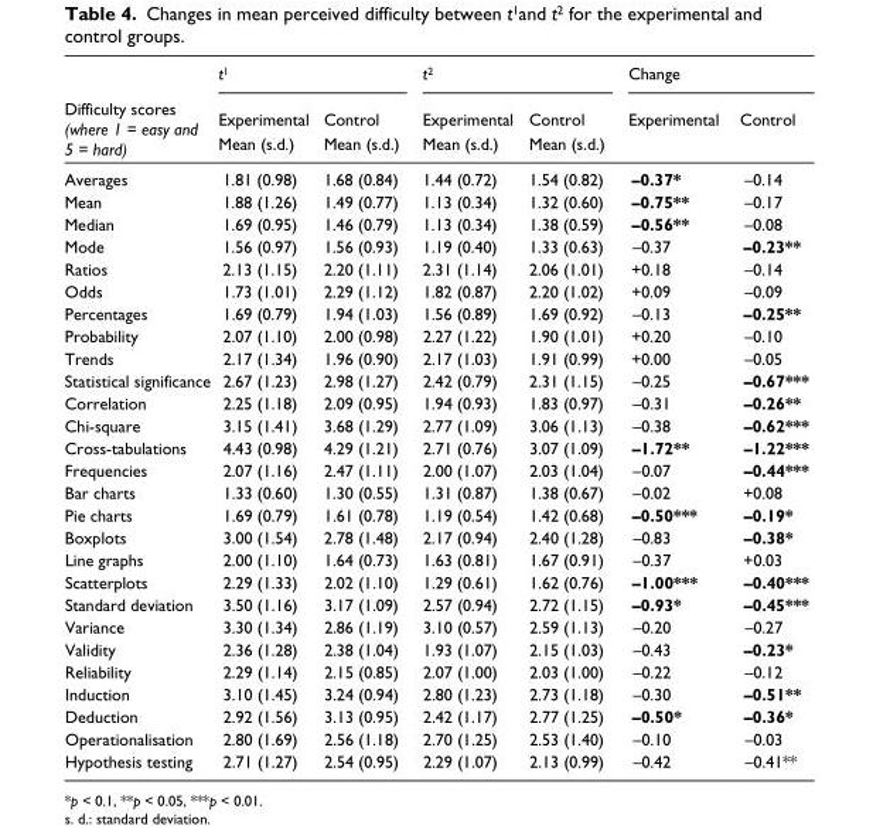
<table><thead><tr><td rowspan="3">Difficulty scores (where 1 = easy and 5 = hard)</td><td colspan="2">t<sup>1</sup></td><td colspan="2">t<sup>2</sup></td><td colspan="2">Change</td></tr><tr><td rowspan="2">Experimental Mean (s.d.)</td><td rowspan="2">Control Mean (s.d.)</td><td rowspan="2">Experimental Mean (s.d.)</td><td rowspan="2">Control Mean (s.d.)</td><td rowspan="2">Experimental</td><td rowspan="2">Control</td></tr><tr></tr></thead><tbody><tr><td>Averages</td><td>1.81 (0.98)</td><td>1.68 (0.84)</td><td>1.44 (0.72)</td><td>1.54 (0.82)</td><td>–0.37*</td><td>–0.14</td></tr><tr><td>Mean</td><td>1.88 (1.26)</td><td>1.49 (0.77)</td><td>1.13 (0.34)</td><td>1.32 (0.60)</td><td>–0.75**</td><td>–0.17</td></tr><tr><td>Median</td><td>1.69 (0.95)</td><td>1.46 (0.79)</td><td>1.13 (0.34)</td><td>1.38 (0.59)</td><td>–0.56**</td><td>–0.08</td></tr><tr><td>Mode</td><td>1.56 (0.97)</td><td>1.56 (0.93)</td><td>1.19 (0.40)</td><td>1.33 (0.63)</td><td>–0.37</td><td>–0.23**</td></tr><tr><td>Ratios</td><td>2.13 (1.15)</td><td>2.20 (1.11)</td><td>2.31 (1.14)</td><td>2.06 (1.01)</td><td>+0.18</td><td>–0.14</td></tr><tr><td>Odds</td><td>1.73 (1.01)</td><td>2.29 (1.12)</td><td>1.82 (0.87)</td><td>2.20 (1.02)</td><td>+0.09</td><td>–0.09</td></tr><tr><td>Percentages</td><td>1.69 (0.79)</td><td>1.94 (1.03)</td><td>1.56 (0.89)</td><td>1.69 (0.92)</td><td>–0.13</td><td>–0.25**</td></tr><tr><td>Probability</td><td>2.07 (1.10)</td><td>2.00 (0.98)</td><td>2.27 (1.22)</td><td>1.90 (1.01)</td><td>+0.20</td><td>–0.10</td></tr><tr><td>Trends</td><td>2.17 (1.34)</td><td>1.96 (0.90)</td><td>2.17 (1.03)</td><td>1.91 (0.99)</td><td>+0.00</td><td>–0.05</td></tr><tr><td>Statistical significance</td><td>2.67 (1.23)</td><td>2.98 (1.27)</td><td>2.42 (0.79)</td><td>2.31 (1.15)</td><td>–0.25</td><td>–0.67***</td></tr><tr><td>Correlation</td><td>2.25 (1.18)</td><td>2.09 (0.95)</td><td>1.94 (0.93)</td><td>1.83 (0.97)</td><td>–0.31</td><td>–0.26**</td></tr><tr><td>Chi-square</td><td>3.15 (1.41)</td><td>3.68 (1.29)</td><td>2.77 (1.09)</td><td>3.06 (1.13)</td><td>–0.38</td><td>–0.62***</td></tr><tr><td>Cross-tabulations</td><td>4.43 (0.98)</td><td>4.29 (1.21)</td><td>2.71 (0.76)</td><td>3.07 (1.09)</td><td>–1.72**</td><td>–1.22***</td></tr><tr><td>Frequencies</td><td>2.07 (1.16)</td><td>2.47 (1.11)</td><td>2.00 (1.07)</td><td>2.03 (1.04)</td><td>–0.07</td><td>–0.44***</td></tr><tr><td>Bar charts</td><td>1.33 (0.60)</td><td>1.30 (0.55)</td><td>1.31 (0.87)</td><td>1.38 (0.67)</td><td>–0.02</td><td>+0.08</td></tr><tr><td>Pie charts</td><td>1.69 (0.79)</td><td>1.61 (0.78)</td><td>1.19 (0.54)</td><td>1.42 (0.68)</td><td>–0.50***</td><td>–0.19*</td></tr><tr><td>Boxplots</td><td>3.00 (1.54)</td><td>2.78 (1.48)</td><td>2.17 (0.94)</td><td>2.40 (1.28)</td><td>–0.83</td><td>–0.38*</td></tr><tr><td>Line graphs</td><td>2.00 (1.10)</td><td>1.64 (0.73)</td><td>1.63 (0.81)</td><td>1.67 (0.91)</td><td>–0.37</td><td>+0.03</td></tr><tr><td>Scatterplots</td><td>2.29 (1.33)</td><td>2.02 (1.10)</td><td>1.29 (0.61)</td><td>1.62 (0.76)</td><td>–1.00***</td><td>–0.40***</td></tr><tr><td>Standard deviation</td><td>3.50 (1.16)</td><td>3.17 (1.09)</td><td>2.57 (0.94)</td><td>2.72 (1.15)</td><td>–0.93*</td><td>–0.45***</td></tr><tr><td>Variance</td><td>3.30 (1.34)</td><td>2.86 (1.19)</td><td>3.10 (0.57)</td><td>2.59 (1.13)</td><td>–0.20</td><td>–0.27</td></tr><tr><td>Validity</td><td>2.36 (1.28)</td><td>2.38 (1.04)</td><td>1.93 (1.07)</td><td>2.15 (1.03)</td><td>–0.43</td><td>–0.23*</td></tr><tr><td>Reliability</td><td>2.29 (1.14)</td><td>2.15 (0.85)</td><td>2.07 (1.00)</td><td>2.03 (1.00)</td><td>–0.22</td><td>–0.12</td></tr><tr><td>Induction</td><td>3.10 (1.45)</td><td>3.24 (0.94)</td><td>2.80 (1.23)</td><td>2.73 (1.18)</td><td>–0.30</td><td>–0.51**</td></tr><tr><td>Deduction</td><td>2.92 (1.56)</td><td>3.13 (0.95)</td><td>2.42 (1.17)</td><td>2.77 (1.25)</td><td>–0.50*</td><td>–0.36*</td></tr><tr><td>Operationalisation</td><td>2.80 (1.69)</td><td>2.56 (1.18)</td><td>2.70 (1.25)</td><td>2.53 (1.40)</td><td>–0.10</td><td>–0.03</td></tr><tr><td>Hypothesis testing</td><td>2.71 (1.27)</td><td>2.54 (0.95)</td><td>2.29 (1.07)</td><td>2.13 (0.99)</td><td>–0.42</td><td>–0.41**</td></tr></tbody></table>